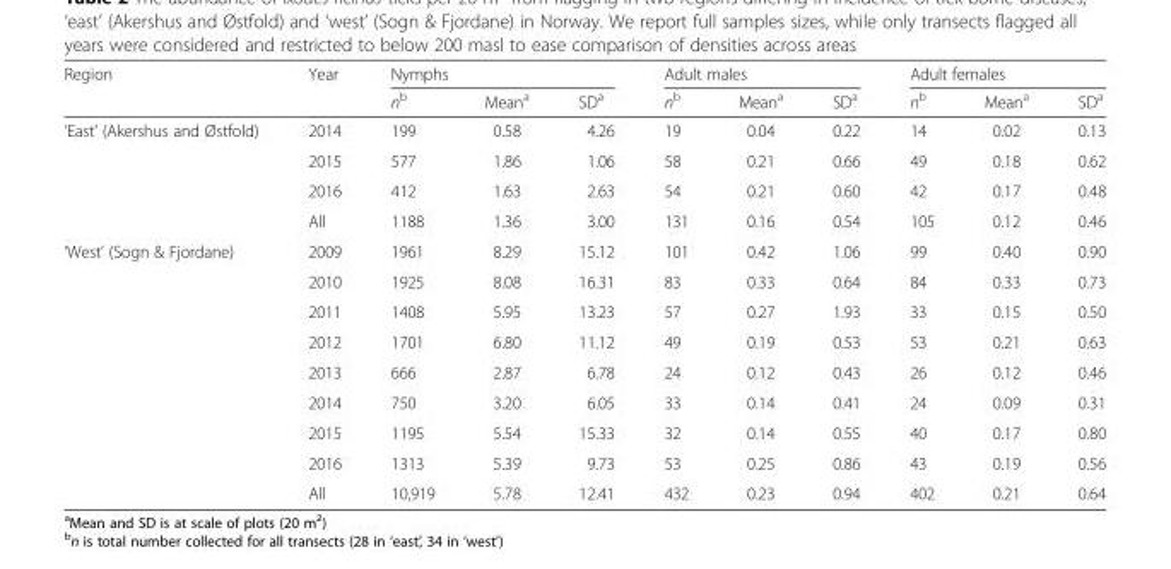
<table><thead><tr><td rowspan="2">Region</td><td rowspan="2">Year</td><td colspan="3">Nymphs</td><td colspan="3">Adult males</td><td colspan="3">Adult females</td></tr><tr><td>n<sup>b</sup></td><td>Mean<sup>a</sup></td><td>SD<sup>a</sup></td><td>n<sup>b</sup></td><td>Mean<sup>a</sup></td><td>SD<sup>a</sup></td><td>n<sup>b</sup></td><td>Mean<sup>a</sup></td><td>SD<sup>a</sup></td></tr></thead><tbody><tr><td rowspan="4">‘East’ (Akershus and Østfold)</td><td>2014</td><td>199</td><td>0.58</td><td>4.26</td><td>19</td><td>0.04</td><td>0.22</td><td>14</td><td>0.02</td><td>0.13</td></tr><tr><td>2015</td><td>577</td><td>1.86</td><td>1.06</td><td>58</td><td>0.21</td><td>0.66</td><td>49</td><td>0.18</td><td>0.62</td></tr><tr><td>2016</td><td>412</td><td>1.63</td><td>2.63</td><td>54</td><td>0.21</td><td>0.60</td><td>42</td><td>0.17</td><td>0.48</td></tr><tr><td>All</td><td>1188</td><td>1.36</td><td>3.00</td><td>131</td><td>0.16</td><td>0.54</td><td>105</td><td>0.12</td><td>0.46</td></tr><tr><td rowspan="9">‘West’ (Sogn &amp; Fjordane)</td><td>2009</td><td>1961</td><td>8.29</td><td>15.12</td><td>101</td><td>0.42</td><td>1.06</td><td>99</td><td>0.40</td><td>0.90</td></tr><tr><td>2010</td><td>1925</td><td>8.08</td><td>16.31</td><td>83</td><td>0.33</td><td>0.64</td><td>84</td><td>0.33</td><td>0.73</td></tr><tr><td>2011</td><td>1408</td><td>5.95</td><td>13.23</td><td>57</td><td>0.27</td><td>1.93</td><td>33</td><td>0.15</td><td>0.50</td></tr><tr><td>2012</td><td>1701</td><td>6.80</td><td>11.12</td><td>49</td><td>0.19</td><td>0.53</td><td>53</td><td>0.21</td><td>0.63</td></tr><tr><td>2013</td><td>666</td><td>2.87</td><td>6.78</td><td>24</td><td>0.12</td><td>0.43</td><td>26</td><td>0.12</td><td>0.46</td></tr><tr><td>2014</td><td>750</td><td>3.20</td><td>6.05</td><td>33</td><td>0.14</td><td>0.41</td><td>24</td><td>0.09</td><td>0.31</td></tr><tr><td>2015</td><td>1195</td><td>5.54</td><td>15.33</td><td>32</td><td>0.14</td><td>0.55</td><td>40</td><td>0.17</td><td>0.80</td></tr><tr><td>2016</td><td>1313</td><td>5.39</td><td>9.73</td><td>53</td><td>0.25</td><td>0.86</td><td>43</td><td>0.19</td><td>0.56</td></tr><tr><td>All</td><td>10,919</td><td>5.78</td><td>12.41</td><td>432</td><td>0.23</td><td>0.94</td><td>402</td><td>0.21</td><td>0.64</td></tr></tbody></table>